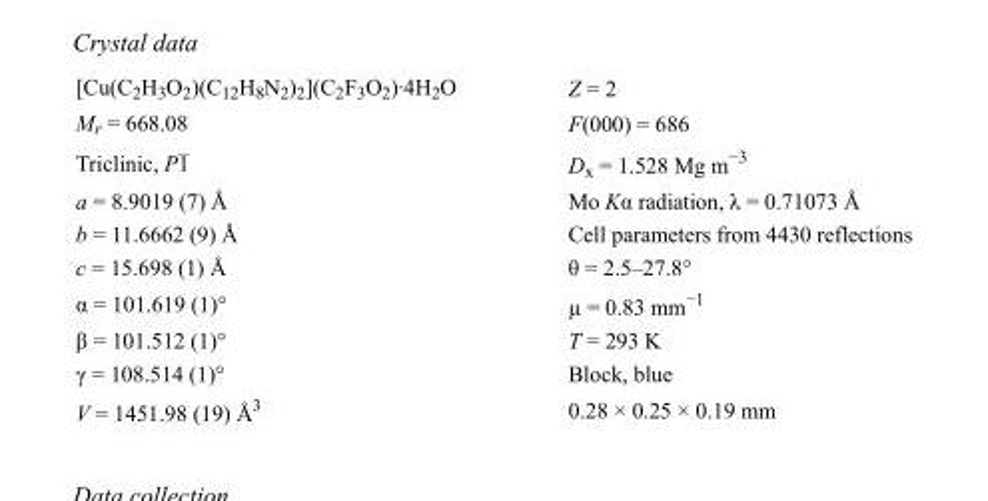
<table><tbody><tr><td>[Cu(C<sub>2</sub>H<sub>3</sub>O<sub>2</sub>)(C<sub>12</sub>H<sub>8</sub>N<sub>2</sub>)<sub>2</sub>](C<sub>2</sub>F<sub>3</sub>O<sub>2</sub>)·4H<sub>2</sub>O</td><td>Z = 2</td></tr><tr><td>M<sub>r</sub> = 668.08</td><td>F(000) = 686</td></tr><tr><td>Triclinic, P1</td><td>D<sub>x</sub> = 1.528 Mg m<sup>−3</sup></td></tr><tr><td>a = 8.9019 (7) Å</td><td>Mo Kα radiation, λ = 0.71073 Å</td></tr><tr><td>b = 11.6662 (9) Å</td><td>Cell parameters from 4430 reflections</td></tr><tr><td>c = 15.698 (1) Å</td><td>θ = 2.5–27.8°</td></tr><tr><td>α = 101.619 (1)°</td><td>µ = 0.83 mm<sup>−1</sup></td></tr><tr><td>β = 101.512 (1)°</td><td>T = 293 K</td></tr><tr><td>γ = 108.514 (1)°</td><td>Block, blue</td></tr><tr><td>V = 1451.98 (19) Å<sup>3</sup></td><td>0.28 × 0.25 × 0.19 mm</td></tr></tbody></table>